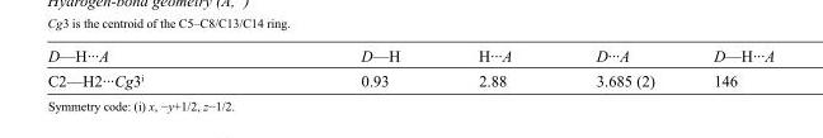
<table><tbody><tr><td>D—H···A</td><td>D—H</td><td>H···A</td><td>D···A</td><td>D—H···A</td></tr><tr><td>C2—H2···Cg3<sup>i</sup></td><td>0.93</td><td>2.88</td><td>3.685 (2)</td><td>146</td></tr></tbody></table>